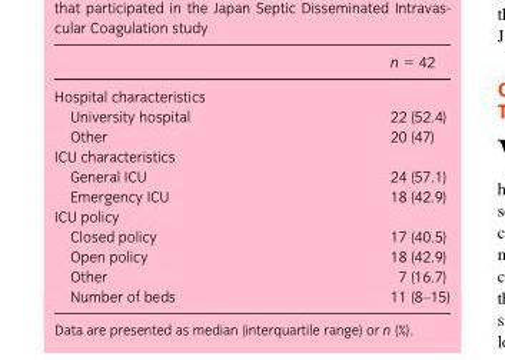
<table><thead><tr><td></td><td>n = 42</td></tr></thead><tbody><tr><td colspan="2">Hospital characteristics</td></tr><tr><td>University hospital</td><td>22 (52.4)</td></tr><tr><td>Other</td><td>20 (47)</td></tr><tr><td colspan="2">ICU characteristics</td></tr><tr><td>General ICU</td><td>24 (57.1)</td></tr><tr><td>Emergency ICU</td><td>18 (42.9)</td></tr><tr><td colspan="2">ICU policy</td></tr><tr><td>Closed policy</td><td>17 (40.5)</td></tr><tr><td>Open policy</td><td>18 (42.9)</td></tr><tr><td>Other</td><td>7 (16.7)</td></tr><tr><td>Number of beds</td><td>11 (8–15)</td></tr></tbody></table>